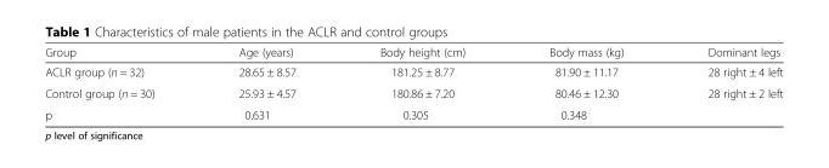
<table><thead><tr><td>Group</td><td>Age (years)</td><td>Body height (cm)</td><td>Body mass (kg)</td><td>Dominant legs</td></tr></thead><tbody><tr><td>ACLR group (n = 32)</td><td>28.65 ± 8.57</td><td>181.25 ± 8.77</td><td>81.90 ± 11.17</td><td>28 right ± 4 left</td></tr><tr><td>Control group (n = 30)</td><td>25.93 ± 4.57</td><td>180.86 ± 7.20</td><td>80.46 ± 12.30</td><td>28 right ± 2 left</td></tr><tr><td>p</td><td>0.631</td><td>0.305</td><td>0.348</td><td></td></tr></tbody></table>